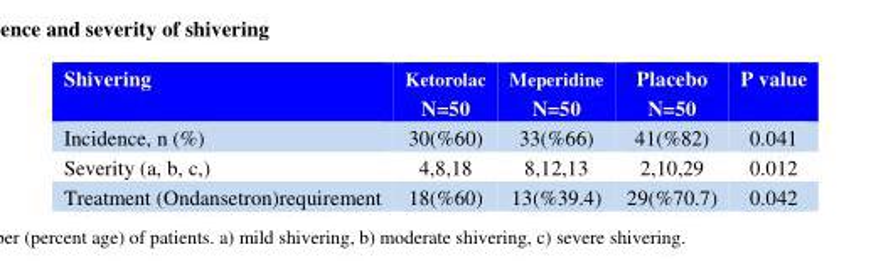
<table><thead><tr><td>Shivering</td><td>Ketorolac N=50</td><td>Meperidine N=50</td><td>Placebo N=50</td><td>P value</td></tr></thead><tbody><tr><td>Incidence, n (%)</td><td>30(%60)</td><td>33(%66)</td><td>41(%82)</td><td>0.041</td></tr><tr><td>Severity (a, b, c,)</td><td>4,8,18</td><td>8,12,13</td><td>2,10,29</td><td>0.012</td></tr><tr><td>Treatment (Ondansetron)requirement</td><td>18(%60)</td><td>13(%39.4)</td><td>29(%70.7)</td><td>0.042</td></tr></tbody></table>